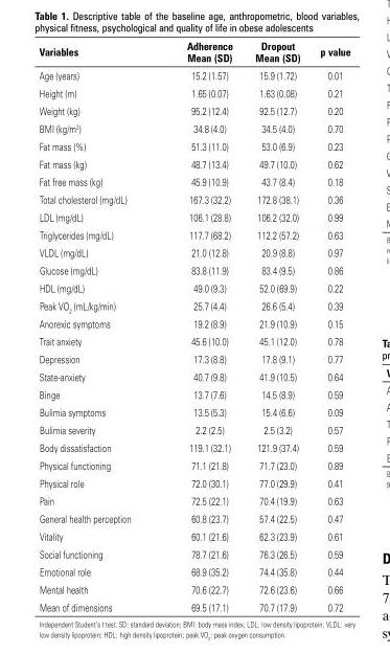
<table><thead><tr><td>Variables</td><td>adherence Mean (SD)</td><td>Dropout Mean (SD)</td><td>p value</td></tr></thead><tbody><tr><td>Age (years)</td><td>15.2 (1.57)</td><td>15.9 (1.72)</td><td>0.01</td></tr><tr><td>Height (m)</td><td>1.65 (0.07)</td><td>1.63 (0.08)</td><td>0.21</td></tr><tr><td>Weight (kg)</td><td>95.2 (12.4)</td><td>92.5 (12.7)</td><td>0.20</td></tr><tr><td>BMI (kg/m<sup>2</sup>)</td><td>34.8 (4.0)</td><td>34.5 (4.0)</td><td>0.70</td></tr><tr><td>Fat mass (%)</td><td>51.3 (11.0)</td><td>53.0 (6.9)</td><td>0.23</td></tr><tr><td>Fat mass (kg)</td><td>48.7 (13.4)</td><td>49.7 (10.0)</td><td>0.62</td></tr><tr><td>Fat free mass (kg)</td><td>45.9 (10.9)</td><td>43.7 (8.4)</td><td>0.18</td></tr><tr><td>Total cholesterol (mg/dL)</td><td>167.3 (32.2)</td><td>172.8 (38.1)</td><td>0.36</td></tr><tr><td>LDL (mg/dL)</td><td>106.1 (28.8)</td><td>106.2 (32.0)</td><td>0.99</td></tr><tr><td>Triglycerides (mg/dL)</td><td>117.7 (68.2)</td><td>112.2 (57.2)</td><td>0.63</td></tr><tr><td>VLDL (mg/dL)</td><td>21.0 (12.8)</td><td>20.9 (8.8)</td><td>0.97</td></tr><tr><td>Glucose (mg/dL)</td><td>83.8 (11.9)</td><td>83.4 (9.5)</td><td>0.86</td></tr><tr><td>HDL (mg/dL)</td><td>49.0 (9.3)</td><td>52.0 (69.9)</td><td>0.22</td></tr><tr><td>Peak VO<sub>2</sub> (mL/kg/min)</td><td>25.7 (4.4)</td><td>26.6 (5.4)</td><td>0.39</td></tr><tr><td>Anorexic symptoms</td><td>19.2 (8.9)</td><td>21.9 (10.9)</td><td>0.15</td></tr><tr><td>Trait anxiety</td><td>45.6 (10.0)</td><td>45.1 (12.0)</td><td>0.78</td></tr><tr><td>Depression</td><td>17.3 (8.8)</td><td>17.8 (9.1)</td><td>0.77</td></tr><tr><td>State-anxiety</td><td>40.7 (9.8)</td><td>41.9 (10.5)</td><td>0.64</td></tr><tr><td>Binge</td><td>13.7 (7.6)</td><td>14.5 (8.9)</td><td>0.59</td></tr><tr><td>Bulimia symptoms</td><td>13.5 (5.3)</td><td>15.4 (6.6)</td><td>0.09</td></tr><tr><td>Bulimia severity</td><td>2.2 (2.5)</td><td>2.5 (3.2)</td><td>0.57</td></tr><tr><td>Body dissatisfaction</td><td>119.1 (32.1)</td><td>121.9 (37.4)</td><td>0.59</td></tr><tr><td>Physical functioning</td><td>71.1 (21.8)</td><td>71.7 (23.0)</td><td>0.89</td></tr><tr><td>Physical role</td><td>72.0 (30.1)</td><td>77.0 (29.9)</td><td>0.41</td></tr><tr><td>Pain</td><td>72.5 (22.1)</td><td>70.4 (19.9)</td><td>0.63</td></tr><tr><td>General health perception</td><td>60.8 (23.7)</td><td>57.4 (22.5)</td><td>0.47</td></tr><tr><td>Vitality</td><td>60.1 (21.6)</td><td>62.3 (23.9)</td><td>0.61</td></tr><tr><td>Social functioning</td><td>78.7 (21.6)</td><td>76.3 (26.5)</td><td>0.59</td></tr><tr><td>Emotional role</td><td>68.9 (35.2)</td><td>74.4 (35.8)</td><td>0.44</td></tr><tr><td>Mental health</td><td>70.6 (22.7)</td><td>72.6 (23.6)</td><td>0.66</td></tr><tr><td>Mean of dimensions</td><td>69.5 (17.1)</td><td>70.7 (17.9)</td><td>0.72</td></tr></tbody></table>